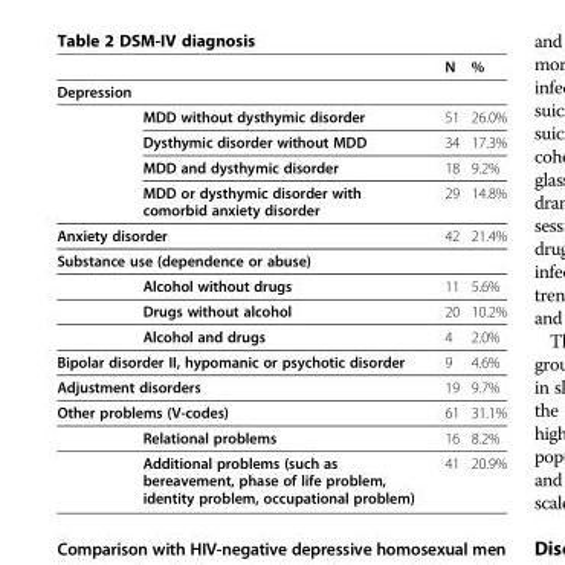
<table><thead><tr><td></td><td></td><td>N</td><td>%</td></tr></thead><tbody><tr><td colspan="4">Depression</td></tr><tr><td rowspan="4"></td><td>MDD without dysthymic disorder</td><td>51</td><td>26.0%</td></tr><tr><td>Dysthymic disorder without MDD</td><td>34</td><td>17.3%</td></tr><tr><td>MDD and dysthymic disorder</td><td>18</td><td>9.2%</td></tr><tr><td>MDD or dysthymic disorder with comorbid anxiety disorder</td><td>29</td><td>14.8%</td></tr><tr><td colspan="2">Anxiety disorder</td><td>42</td><td>21.4%</td></tr><tr><td colspan="4">Substance use (dependence or abuse)</td></tr><tr><td></td><td>Alcohol without drugs</td><td>11</td><td>5.6%</td></tr><tr><td></td><td>Drugs without alcohol</td><td>20</td><td>10.2%</td></tr><tr><td></td><td>Alcohol and drugs</td><td>4</td><td>2.0%</td></tr><tr><td colspan="2">Bipolar disorder II, hypomanic or psychotic disorder</td><td>9</td><td>4.6%</td></tr><tr><td colspan="2">Adjustment disorders</td><td>19</td><td>9.7%</td></tr><tr><td colspan="2">Other problems (V-codes)</td><td>61</td><td>31.1%</td></tr><tr><td></td><td>Relational problems</td><td>16</td><td>8.2%</td></tr><tr><td></td><td>Additional problems (such as bereavement, phase of life problem, identity problem, occupational problem)</td><td>41</td><td>20.9%</td></tr></tbody></table>